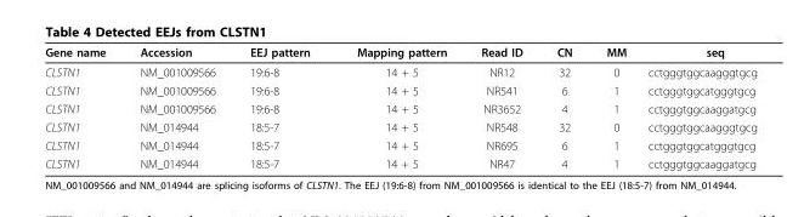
<table><thead><tr><td>Gene name</td><td>Accession</td><td>EEJ pattern</td><td>Mapping pattern</td><td>Read ID</td><td>CN</td><td>MM</td><td>seq</td></tr></thead><tbody><tr><td>CLSTN1</td><td>NM_001009566</td><td>19:6-8</td><td>14 + 5</td><td>NR12</td><td>32</td><td>0</td><td>cctgggtggcaagggtgcg</td></tr><tr><td>CLSTN1</td><td>NM_001009566</td><td>19:6-8</td><td>14 + 5</td><td>NR541</td><td>6</td><td>1</td><td>cctgggtggcatgggtgcg</td></tr><tr><td>CLSTN1</td><td>NM_001009566</td><td>19:6-8</td><td>14 + 5</td><td>NR3652</td><td>4</td><td>1</td><td>cctgggtggcaaggatgcg</td></tr><tr><td>CLSTN1</td><td>NM_014944</td><td>18:5-7</td><td>14 + 5</td><td>NR548</td><td>32</td><td>0</td><td>cctgggtggcaagggtgcg</td></tr><tr><td>CLSTN1</td><td>NM_014944</td><td>18:5-7</td><td>14 + 5</td><td>NR695</td><td>6</td><td>1</td><td>cctgggtggcatgggtgcg</td></tr><tr><td>CLSTN1</td><td>NM_014944</td><td>18:5-7</td><td>14 + 5</td><td>NR47</td><td>4</td><td>1</td><td>cctgggtggcaaggatgcg</td></tr></tbody></table>